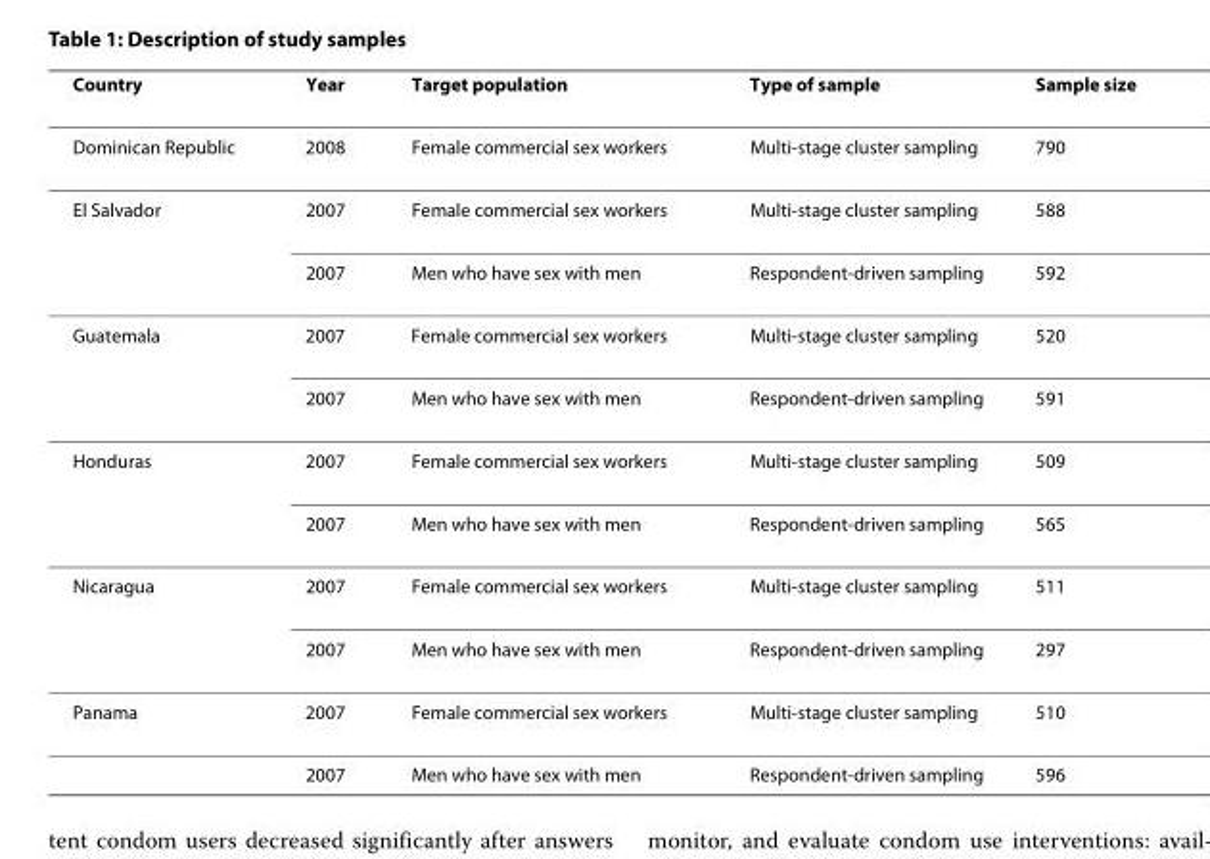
<table><thead><tr><td>Country</td><td>Year</td><td>Target population</td><td>Type of sample</td><td>Sample size</td></tr></thead><tbody><tr><td>Dominican Republic</td><td>2008</td><td>Female commercial sex workers</td><td>Multi-stage cluster sampling</td><td>790</td></tr><tr><td rowspan="2">El Salvador</td><td>2007</td><td>Female commercial sex workers</td><td>Multi-stage cluster sampling</td><td>588</td></tr><tr><td>2007</td><td>Men who have sex with men</td><td>Respondent-driven sampling</td><td>592</td></tr><tr><td rowspan="2">Guatemala</td><td>2007</td><td>Female commercial sex workers</td><td>Multi-stage cluster sampling</td><td>520</td></tr><tr><td>2007</td><td>Men who have sex with men</td><td>Respondent-driven sampling</td><td>591</td></tr><tr><td rowspan="2">Honduras</td><td>2007</td><td>Female commercial sex workers</td><td>Multi-stage cluster sampling</td><td>509</td></tr><tr><td>2007</td><td>Men who have sex with men</td><td>Respondent-driven sampling</td><td>565</td></tr><tr><td rowspan="2">Nicaragua</td><td>2007</td><td>Female commercial sex workers</td><td>Multi-stage cluster sampling</td><td>511</td></tr><tr><td>2007</td><td>Men who have sex with men</td><td>Respondent-driven sampling</td><td>297</td></tr><tr><td rowspan="2">Panama</td><td>2007</td><td>Female commercial sex workers</td><td>Multi-stage cluster sampling</td><td>510</td></tr><tr><td>2007</td><td>Men who have sex with men</td><td>Respondent-driven sampling</td><td>596</td></tr></tbody></table>